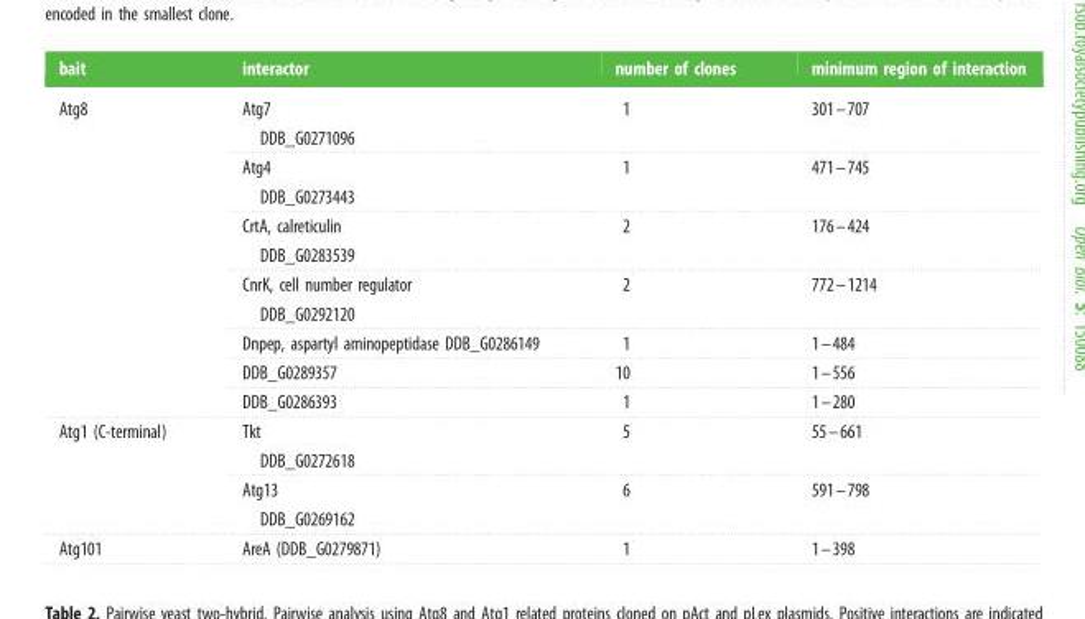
<table><thead><tr><td>bait</td><td>interactor</td><td>number of clones</td><td>minimum region of interaction</td></tr></thead><tbody><tr><td rowspan="7">Atg8</td><td>Atg7 DDB_G0271096</td><td>1</td><td>301–707</td></tr><tr><td>Atg4 DDB_G0273443</td><td>1</td><td>471–745</td></tr><tr><td>CrtA, calreticulin DDB_G0283539</td><td>2</td><td>176–424</td></tr><tr><td>CnrK, cell number regulator DDB_G0292120</td><td>2</td><td>772–1214</td></tr><tr><td>Dnpep, aspartyl aminopeptidase DDB_G0286149</td><td>1</td><td>1–484</td></tr><tr><td>DDB_G0289357</td><td>10</td><td>1–556</td></tr><tr><td>DDB_G0286393</td><td>1</td><td>1–280</td></tr><tr><td rowspan="2">Atg1 (C-terminal)</td><td>Tkt DDB_G0272618</td><td>5</td><td>55–661</td></tr><tr><td>Atg13 DDB_G0269162</td><td>6</td><td>591–798</td></tr><tr><td>Atg101</td><td>AreA (DDB_G0279871)</td><td>1</td><td>1–398</td></tr></tbody></table>